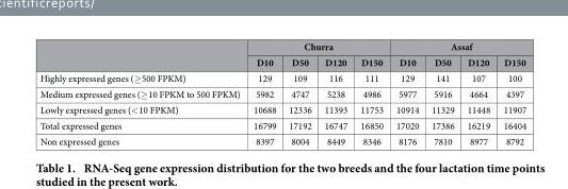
<table><thead><tr><td rowspan="2"></td><td colspan="4">Churra</td><td colspan="4">Assaf</td></tr><tr><td>D10</td><td>D50</td><td>D120</td><td>D150</td><td>D10</td><td>D50</td><td>D120</td><td>D150</td></tr></thead><tbody><tr><td>Highly expressed genes (≥ 500 FPKM)</td><td>129</td><td>109</td><td>116</td><td>111</td><td>129</td><td>141</td><td>107</td><td>100</td></tr><tr><td>Medium expressed genes (≥ 10 FPKM to 500 FPKM)</td><td>5982</td><td>4747</td><td>5238</td><td>4986</td><td>5977</td><td>5916</td><td>4664</td><td>4397</td></tr><tr><td>Lowly expressed genes (&lt; 10 FPKM)</td><td>10688</td><td>12336</td><td>11393</td><td>11753</td><td>10914</td><td>11329</td><td>11448</td><td>11907</td></tr><tr><td>Total expressed genes</td><td>16799</td><td>17192</td><td>16747</td><td>16850</td><td>17020</td><td>17386</td><td>16219</td><td>16404</td></tr><tr><td>Non expressed genes</td><td>8397</td><td>8004</td><td>8449</td><td>8346</td><td>8176</td><td>7810</td><td>8977</td><td>8792</td></tr></tbody></table>